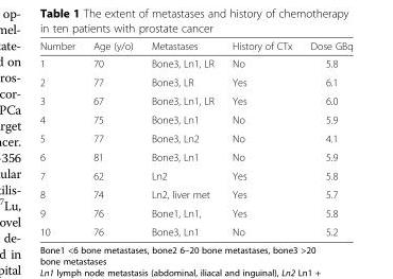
<table><thead><tr><td>Number</td><td>Age (y/o)</td><td>Metastases</td><td>History of CTx</td><td>Dose GBq</td></tr></thead><tbody><tr><td>1</td><td>70</td><td>Bone3, Ln1, LR</td><td>No</td><td>5.8</td></tr><tr><td>2</td><td>77</td><td>Bone3, LR</td><td>Yes</td><td>6.1</td></tr><tr><td>3</td><td>67</td><td>Bone3, Ln1, LR</td><td>Yes</td><td>6.0</td></tr><tr><td>4</td><td>75</td><td>Bone3, Ln1</td><td>No</td><td>5.9</td></tr><tr><td>5</td><td>77</td><td>Bone3, Ln2</td><td>No</td><td>4.1</td></tr><tr><td>6</td><td>81</td><td>Bone3, Ln1</td><td>No</td><td>5.9</td></tr><tr><td>7</td><td>62</td><td>Ln2</td><td>Yes</td><td>5.8</td></tr><tr><td>8</td><td>74</td><td>Ln2, liver met</td><td>Yes</td><td>5.7</td></tr><tr><td>9</td><td>76</td><td>Bone1, Ln1,</td><td>Yes</td><td>5.8</td></tr><tr><td>10</td><td>76</td><td>Bone3, Ln1</td><td>No</td><td>5.2</td></tr></tbody></table>